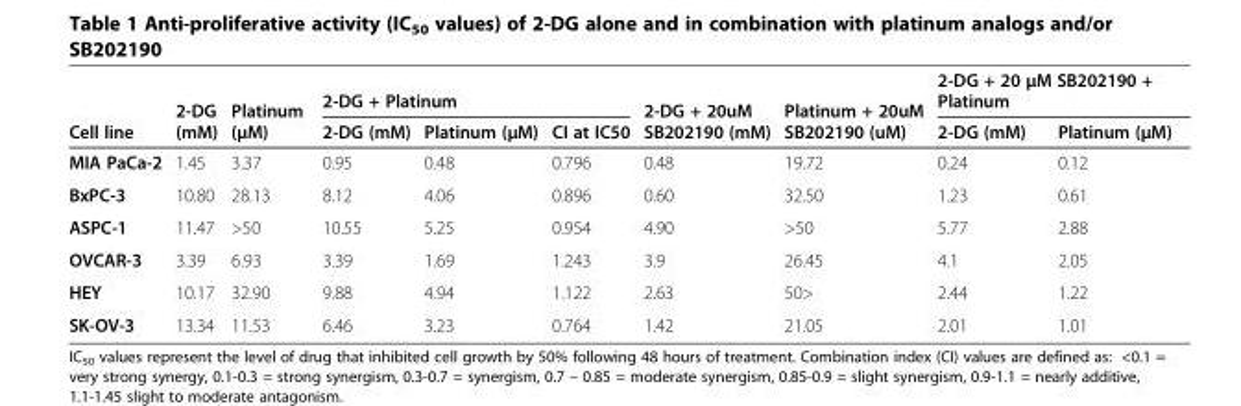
<table><thead><tr><td rowspan="2">Cell line</td><td rowspan="2">2-DG (mM)</td><td rowspan="2">Platinum (μM)</td><td colspan="3">2-DG + Platinum</td><td rowspan="2">2-DG + 20uM SB202190 (mM)</td><td rowspan="2">Platinum + 20uM SB202190 (uM)</td><td colspan="2">2-DG + 20 μM SB202190 + Platinum</td></tr><tr><td>2-DG (mM)</td><td>Platinum (μM)</td><td>CI at IC50</td><td>2-DG (mM)</td><td>Platinum (μM)</td></tr></thead><tbody><tr><td>MIA PaCa-2</td><td>1.45</td><td>3.37</td><td>0.95</td><td>0.48</td><td>0.796</td><td>0.48</td><td>19.72</td><td>0.24</td><td>0.12</td></tr><tr><td>BxPC-3</td><td>10.80</td><td>28.13</td><td>8.12</td><td>4.06</td><td>0.896</td><td>0.60</td><td>32.50</td><td>1.23</td><td>0.61</td></tr><tr><td>ASPC-1</td><td>11.47</td><td>&gt;50</td><td>10.55</td><td>5.25</td><td>0.954</td><td>4.90</td><td>&gt;50</td><td>5.77</td><td>2.88</td></tr><tr><td>OVCAR-3</td><td>3.39</td><td>6.93</td><td>3.39</td><td>1.69</td><td>1.243</td><td>3.9</td><td>26.45</td><td>4.1</td><td>2.05</td></tr><tr><td>HEY</td><td>10.17</td><td>32.90</td><td>9.88</td><td>4.94</td><td>1.122</td><td>2.63</td><td>50&gt;</td><td>2.44</td><td>1.22</td></tr><tr><td>SK-OV-3</td><td>13.34</td><td>11.53</td><td>6.46</td><td>3.23</td><td>0.764</td><td>1.42</td><td>21.05</td><td>2.01</td><td>1.01</td></tr></tbody></table>